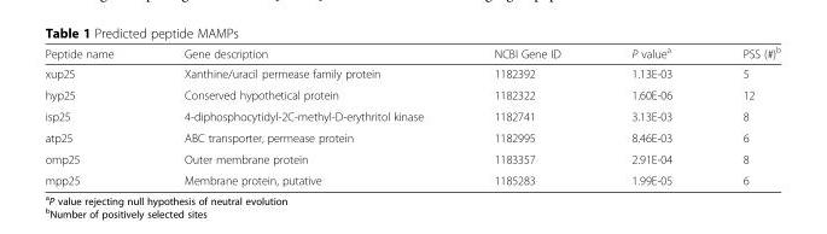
<table><thead><tr><td>Peptide name</td><td>Gene description</td><td>NCBI Gene ID</td><td>P value<sup>a</sup></td><td>PSS (#)<sup>b</sup></td></tr></thead><tbody><tr><td>xup25</td><td>Xanthine/uracil permease family protein</td><td>1182392</td><td>1.13E-03</td><td>5</td></tr><tr><td>hyp25</td><td>Conserved hypothetical protein</td><td>1182322</td><td>1.60E-06</td><td>12</td></tr><tr><td>isp25</td><td>4-diphosphocytidyl-2C-methyl-D-erythritol kinase</td><td>1182741</td><td>3.13E-03</td><td>8</td></tr><tr><td>atp25</td><td>ABC transporter, permease protein</td><td>1182995</td><td>8.46E-03</td><td>6</td></tr><tr><td>omp25</td><td>Outer membrane protein</td><td>1183357</td><td>2.91E-04</td><td>8</td></tr><tr><td>mpp25</td><td>Membrane protein, putative</td><td>1185283</td><td>1.99E-05</td><td>6</td></tr></tbody></table>